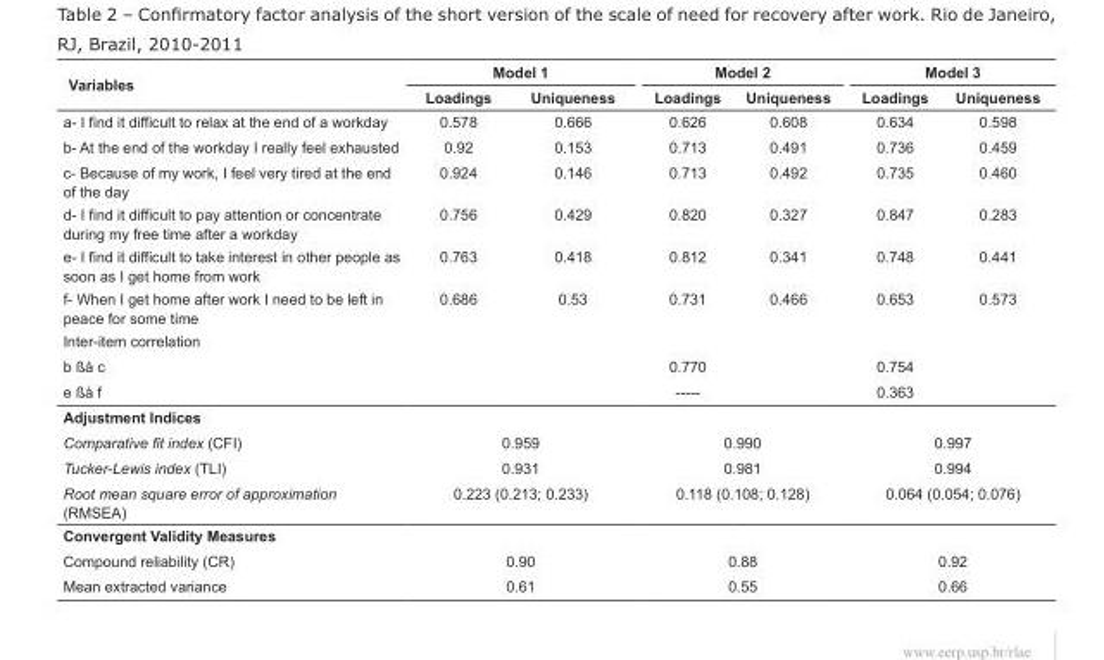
<table><thead><tr><td rowspan="2">Variables</td><td colspan="2">Model 1</td><td colspan="2">Model 2</td><td colspan="2">Model 3</td></tr><tr><td>Loadings</td><td>Uniqueness</td><td>Loadings</td><td>Uniqueness</td><td>Loadings</td><td>Uniqueness</td></tr></thead><tbody><tr><td>a- I find it difficult to relax at the end of a workday</td><td>0.578</td><td>0.666</td><td>0.626</td><td>0.608</td><td>0.634</td><td>0.598</td></tr><tr><td>b- At the end of the workday I really feel exhausted</td><td>0.92</td><td>0.153</td><td>0.713</td><td>0.491</td><td>0.736</td><td>0.459</td></tr><tr><td>c- Because of my work, I feel very tired at the end of the day</td><td>0.924</td><td>0.146</td><td>0.713</td><td>0.492</td><td>0.735</td><td>0.460</td></tr><tr><td>d- I find it difficult to pay attention or concentrate during my free time after a workday</td><td>0.756</td><td>0.429</td><td>0.820</td><td>0.327</td><td>0.847</td><td>0.283</td></tr><tr><td>e- I find it difficult to take interest in other people as soon as I get home from work</td><td>0.763</td><td>0.418</td><td>0.812</td><td>0.341</td><td>0.748</td><td>0.441</td></tr><tr><td>f- When I get home after work I need to be left in peace for some time</td><td>0.686</td><td>0.53</td><td>0.731</td><td>0.466</td><td>0.653</td><td>0.573</td></tr><tr><td colspan="7">Inter-item correlation</td></tr><tr><td>b ßà c</td><td></td><td></td><td>0.770</td><td></td><td>0.754</td><td></td></tr><tr><td>e ßà f</td><td></td><td></td><td>-----</td><td></td><td>0.363</td><td></td></tr><tr><td colspan="7">Adjustment Indices</td></tr><tr><td>Comparative fit index (CFI)</td><td colspan="2">0.959</td><td colspan="2">0.990</td><td colspan="2">0.997</td></tr><tr><td>Tucker-Lewis index (TLI)</td><td colspan="2">0.931</td><td colspan="2">0.981</td><td colspan="2">0.994</td></tr><tr><td>Root mean square error of approximation (RMSEA)</td><td colspan="2">0.223 (0.213; 0.233)</td><td colspan="2">0.118 (0.108; 0.128)</td><td colspan="2">0.064 (0.054; 0.076)</td></tr><tr><td colspan="7">Convergent Validity Measures</td></tr><tr><td>Compound reliability (CR)</td><td colspan="2">0.90</td><td colspan="2">0.88</td><td colspan="2">0.92</td></tr><tr><td>Mean extracted variance</td><td colspan="2">0.61</td><td colspan="2">0.55</td><td colspan="2">0.66</td></tr></tbody></table>